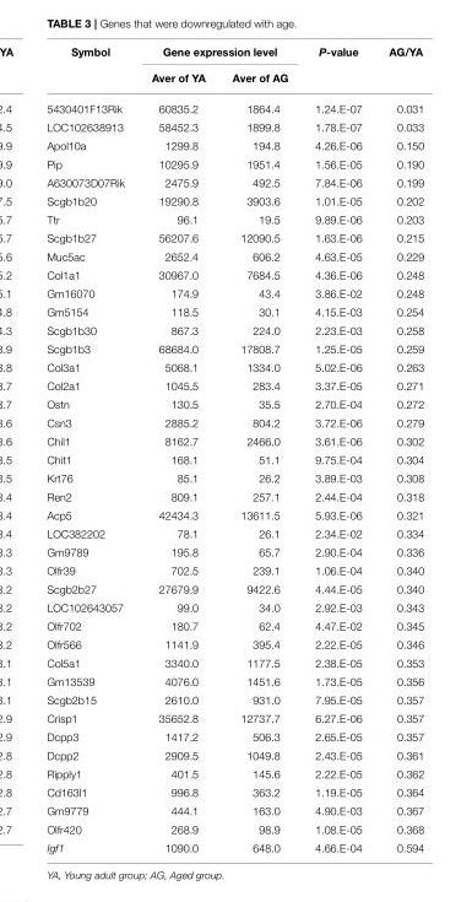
<table><thead><tr><td rowspan="2">Symbol</td><td colspan="2">Gene expression level</td><td rowspan="2">P-value</td><td rowspan="2">AG/YA</td></tr><tr><td>Aver of YA</td><td>Aver of AG</td></tr></thead><tbody><tr><td>5430401F13Rik</td><td>60835.2</td><td>1864.4</td><td>1.24.E-07</td><td>0.031</td></tr><tr><td>LOC102638913</td><td>58452.3</td><td>1899.8</td><td>1.78.E-07</td><td>0.033</td></tr><tr><td>Apol10a</td><td>1299.8</td><td>194.8</td><td>4.26.E-06</td><td>0.150</td></tr><tr><td>Pip</td><td>10295.9</td><td>1951.4</td><td>1.56.E-05</td><td>0.190</td></tr><tr><td>A630073D07Rik</td><td>2475.9</td><td>492.5</td><td>7.84.E-06</td><td>0.199</td></tr><tr><td>Scgb1b20</td><td>19290.8</td><td>3903.6</td><td>1.01.E-05</td><td>0.202</td></tr><tr><td>Ttr</td><td>96.1</td><td>19.5</td><td>9.89.E-06</td><td>0.203</td></tr><tr><td>Scgb1b27</td><td>56207.6</td><td>12090.5</td><td>1.63.E-06</td><td>0.215</td></tr><tr><td>Muc5ac</td><td>2652.4</td><td>606.2</td><td>4.63.E-05</td><td>0.229</td></tr><tr><td>Col1a1</td><td>30967.0</td><td>7684.5</td><td>4.36.E-06</td><td>0.248</td></tr><tr><td>Gm16070</td><td>174.9</td><td>43.4</td><td>3.86.E-02</td><td>0.248</td></tr><tr><td>Gm5154</td><td>118.5</td><td>30.1</td><td>4.15.E-03</td><td>0.254</td></tr><tr><td>Scgb1b30</td><td>867.3</td><td>224.0</td><td>2.23.E-03</td><td>0.258</td></tr><tr><td>Scgb1b3</td><td>68684.0</td><td>17808.7</td><td>1.25.E-05</td><td>0.259</td></tr><tr><td>Col3a1</td><td>5068.1</td><td>1334.0</td><td>5.02.E-06</td><td>0.263</td></tr><tr><td>Col2a1</td><td>1045.5</td><td>283.4</td><td>3.37.E-05</td><td>0.271</td></tr><tr><td>Ostn</td><td>130.5</td><td>35.5</td><td>2.70.E-04</td><td>0.272</td></tr><tr><td>Csn3</td><td>2885.2</td><td>804.2</td><td>3.72.E-06</td><td>0.279</td></tr><tr><td>Chil1</td><td>8162.7</td><td>2466.0</td><td>3.61.E-06</td><td>0.302</td></tr><tr><td>Chit1</td><td>168.1</td><td>51.1</td><td>9.75.E-04</td><td>0.304</td></tr><tr><td>Krt76</td><td>85.1</td><td>26.2</td><td>3.89.E-03</td><td>0.308</td></tr><tr><td>Ren2</td><td>809.1</td><td>257.1</td><td>2.44.E-04</td><td>0.318</td></tr><tr><td>Acp5</td><td>42434.3</td><td>13611.5</td><td>5.93.E-06</td><td>0.321</td></tr><tr><td>LOC382202</td><td>78.1</td><td>26.1</td><td>2.34.E-02</td><td>0.334</td></tr><tr><td>Gm9789</td><td>195.8</td><td>65.7</td><td>2.90.E-04</td><td>0.336</td></tr><tr><td>Olfr39</td><td>702.5</td><td>239.1</td><td>1.06.E-04</td><td>0.340</td></tr><tr><td>Scgb2b27</td><td>27679.9</td><td>9422.6</td><td>4.44.E-05</td><td>0.340</td></tr><tr><td>LOC102643057</td><td>99.0</td><td>34.0</td><td>2.92.E-03</td><td>0.343</td></tr><tr><td>Olfr702</td><td>180.7</td><td>62.4</td><td>4.47.E-02</td><td>0.345</td></tr><tr><td>Olfr566</td><td>1141.9</td><td>395.4</td><td>2.22.E-05</td><td>0.346</td></tr><tr><td>Col5a1</td><td>3340.0</td><td>1177.5</td><td>2.38.E-05</td><td>0.353</td></tr><tr><td>Gm13539</td><td>4076.0</td><td>1451.6</td><td>1.73.E-05</td><td>0.356</td></tr><tr><td>Scgb2b15</td><td>2610.0</td><td>931.0</td><td>7.95.E-05</td><td>0.357</td></tr><tr><td>Crisp1</td><td>35652.8</td><td>12737.7</td><td>6.27.E-06</td><td>0.357</td></tr><tr><td>Dcpp3</td><td>1417.2</td><td>506.3</td><td>2.65.E-05</td><td>0.357</td></tr><tr><td>Dcpp2</td><td>2909.5</td><td>1049.8</td><td>2.43.E-05</td><td>0.361</td></tr><tr><td>Ripply1</td><td>401.5</td><td>145.6</td><td>2.22.E-05</td><td>0.362</td></tr><tr><td>Cd163l1</td><td>996.8</td><td>363.2</td><td>1.19.E-05</td><td>0.364</td></tr><tr><td>Gm9779</td><td>444.1</td><td>163.0</td><td>4.90.E-03</td><td>0.367</td></tr><tr><td>Olfr420</td><td>268.9</td><td>98.9</td><td>1.08.E-05</td><td>0.368</td></tr><tr><td>Igf1</td><td>1090.0</td><td>648.0</td><td>4.66.E-04</td><td>0.594</td></tr></tbody></table>